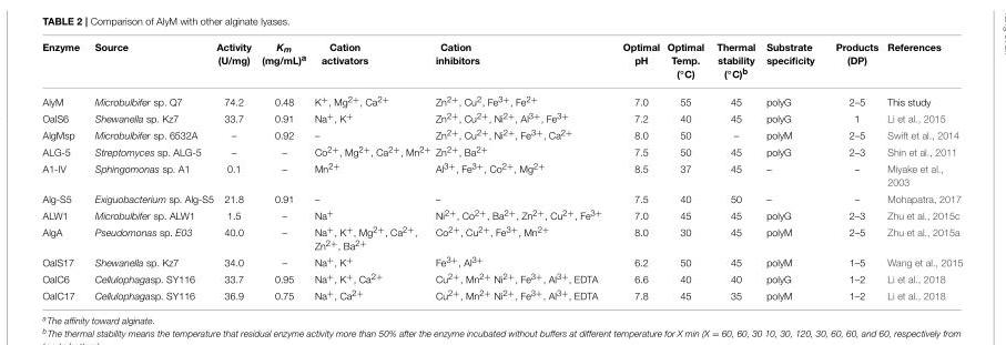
<table><thead><tr><td>Enzyme</td><td>Source</td><td>Activity (U/mg)</td><td>K<sub>m</sub> (mg/mL)<sup>a</sup></td><td>Cation activators</td><td>Cation inhibitors</td><td>Optimal pH</td><td>Optimal Temp. (◦C)</td><td>Thermal stability (◦C)b</td><td>Substrate specificity</td><td>Products (DP)</td><td>References</td></tr></thead><tbody><tr><td>AlyM</td><td>Microbulbifer sp. Q7</td><td>74.2</td><td>0.48</td><td>K<sup>+</sup>, Mg<sup>2+</sup>, Ca<sup>2+</sup></td><td>Zn<sup>2+</sup>, Cu<sup>2</sup>, Fe<sup>3+</sup>, Fe<sup>2+</sup></td><td>7.0</td><td>55</td><td>45</td><td>polyG</td><td>2–5</td><td>This study</td></tr><tr><td>OalS6</td><td>Shewanella sp. Kz7</td><td>33.7</td><td>0.91</td><td>Na<sup>+</sup>, K<sup>+</sup></td><td>Zn<sup>2+</sup>, Cu<sup>2+</sup>, Ni<sup>2+</sup>, Al<sup>3+</sup>, Fe<sup>3+</sup></td><td>7.2</td><td>40</td><td>45</td><td>polyG</td><td>1</td><td>Li et al., 2015</td></tr><tr><td>AlgMsp</td><td>Microbulbifer sp. 6532A</td><td>–</td><td>0.92</td><td>–</td><td>Zn<sup>2+</sup>, Cu<sup>2+</sup>, Ni<sup>2+</sup>, Fe<sup>3+</sup>, Ca<sup>2+</sup></td><td>8.0</td><td>50</td><td>–</td><td>polyM</td><td>2–5</td><td>Swift et al., 2014</td></tr><tr><td>ALG-5</td><td>Streptomyces sp. ALG-5</td><td>–</td><td>–</td><td>Co<sup>2+</sup>, Mg<sup>2+</sup>, Ca<sup>2+</sup>, Mn<sup>2+</sup></td><td>Zn<sup>2+</sup>, Ba<sup>2+</sup></td><td>7.5</td><td>50</td><td>45</td><td>polyG</td><td>2–3</td><td>Shin et al., 2011</td></tr><tr><td>A1-IV</td><td>Sphingomonas sp. A1</td><td>0.1</td><td>–</td><td>Mn<sup>2+</sup></td><td>Al<sup>3+</sup>, Fe<sup>3+</sup>, Co<sup>2+</sup>, Mg<sup>2+</sup></td><td>8.5</td><td>37</td><td>45</td><td>–</td><td>–</td><td>Miyake et al., 2003</td></tr><tr><td>Alg-S5</td><td>Exiguobacterium sp. Alg-S5</td><td>21.8</td><td>0.91</td><td>–</td><td>–</td><td>7.5</td><td>40</td><td>50</td><td>–</td><td>–</td><td>Mohapatra, 2017</td></tr><tr><td>ALW1</td><td>Microbulbifer sp. ALW1</td><td>1.5</td><td>–</td><td>Na<sup>+</sup></td><td>Ni<sup>2+</sup>, Co<sup>2+</sup>, Ba<sup>2+</sup>, Zn<sup>2+</sup>, Cu<sup>2+</sup>, Fe<sup>3+</sup></td><td>7.0</td><td>45</td><td>45</td><td>polyG</td><td>2–3</td><td>Zhu et al., 2015c</td></tr><tr><td>AlgA</td><td>Pseudomonas sp. E03</td><td>40.0</td><td>–</td><td>Na<sup>+</sup>, K<sup>+</sup>, Mg<sup>2+</sup>, Ca<sup>2+</sup>, Zn<sup>2+</sup>, Ba<sup>2+</sup></td><td>Co<sup>2+</sup>, Cu<sup>2+</sup>, Fe<sup>3+</sup>, Mn<sup>2+</sup></td><td>8.0</td><td>30</td><td>45</td><td>polyM</td><td>2–5</td><td>Zhu et al., 2015a</td></tr><tr><td>OalS17</td><td>Shewanella sp. Kz7</td><td>34.0</td><td>–</td><td>Na<sup>+</sup>, K<sup>+</sup></td><td>Fe<sup>3+</sup>, Al<sup>3+</sup></td><td>6.2</td><td>50</td><td>45</td><td>polyM</td><td>1–5</td><td>Wang et al., 2015</td></tr><tr><td>OalC6</td><td>Cellulophagasp. SY116</td><td>33.7</td><td>0.95</td><td>Na<sup>+</sup>, K<sup>+</sup>, Ca<sup>2+</sup></td><td>Cu<sup>2+</sup>, Mn<sup>2+</sup> Ni<sup>2+</sup>, Fe<sup>3+</sup>, Al<sup>3+</sup>, EDTA</td><td>6.6</td><td>40</td><td>40</td><td>polyG</td><td>1–2</td><td>Li et al., 2018</td></tr><tr><td>OalC17</td><td>Cellulophagasp. SY116</td><td>36.9</td><td>0.75</td><td>Na<sup>+</sup>, Ca<sup>2+</sup></td><td>Cu<sup>2+</sup>, Mn<sup>2+</sup> Ni<sup>2+</sup>, Fe<sup>3+</sup>, Al<sup>3+</sup>, EDTA</td><td>7.8</td><td>45</td><td>35</td><td>polyM</td><td>1–2</td><td>Li et al., 2018</td></tr></tbody></table>